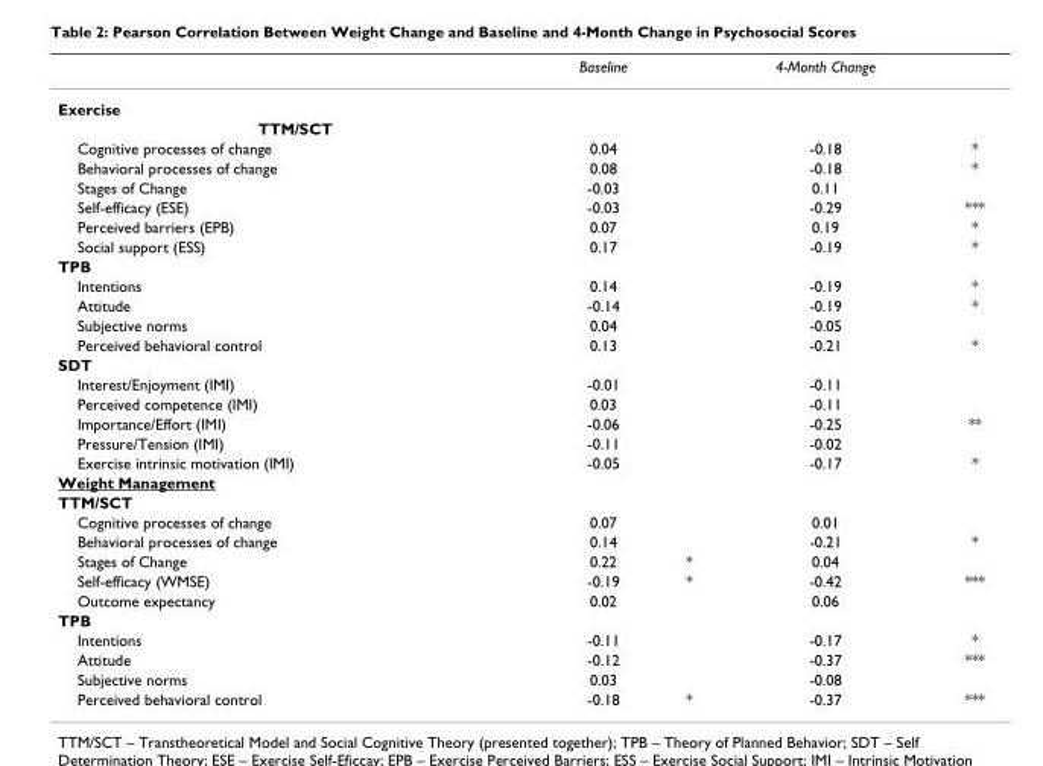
<table><thead><tr><td></td><td>Baseline</td><td></td><td>4-Month Change</td><td></td></tr></thead><tbody><tr><td colspan="5">Exercise</td></tr><tr><td colspan="5">TTM/SCT</td></tr><tr><td>Cognitive processes of change</td><td>0.04</td><td></td><td>-0.18</td><td>*</td></tr><tr><td>Behavioral processes of change</td><td>0.08</td><td></td><td>-0.18</td><td>*</td></tr><tr><td>Stages of Change</td><td>-0.03</td><td></td><td>0.11</td><td></td></tr><tr><td>Self-efficacy (ESE)</td><td>-0.03</td><td></td><td>-0.29</td><td>***</td></tr><tr><td>Perceived barriers (EPB)</td><td>0.07</td><td></td><td>0.19</td><td>*</td></tr><tr><td>Social support (ESS)</td><td>0.17</td><td></td><td>-0.19</td><td>*</td></tr><tr><td colspan="5">TPB</td></tr><tr><td>Intentions</td><td>0.14</td><td></td><td>-0.19</td><td>*</td></tr><tr><td>Attitude</td><td>-0.14</td><td></td><td>-0.19</td><td>*</td></tr><tr><td>Subjective norms</td><td>0.04</td><td></td><td>-0.05</td><td></td></tr><tr><td>Perceived behavioral control</td><td>0.13</td><td></td><td>-0.21</td><td>*</td></tr><tr><td colspan="5">SDT</td></tr><tr><td>Interest/Enjoyment (IMI)</td><td>-0.01</td><td></td><td>-0.11</td><td></td></tr><tr><td>Perceived competence (IMI)</td><td>0.03</td><td></td><td>-0.11</td><td></td></tr><tr><td>Importance/Effort (IMI)</td><td>-0.06</td><td></td><td>-0.25</td><td>**</td></tr><tr><td>Pressure/Tension (IMI)</td><td>-0.11</td><td></td><td>-0.02</td><td></td></tr><tr><td>Exercise intrinsic motivation (IMI)</td><td>-0.05</td><td></td><td>-0.17</td><td>*</td></tr><tr><td colspan="5">Weight Management</td></tr><tr><td colspan="5">TTM/SCT</td></tr><tr><td>Cognitive processes of change</td><td>0.07</td><td></td><td>0.01</td><td></td></tr><tr><td>Behavioral processes of change</td><td>0.14</td><td></td><td>-0.21</td><td>*</td></tr><tr><td>Stages of Change</td><td>0.22</td><td>*</td><td>0.04</td><td></td></tr><tr><td>Self-efficacy (WMSE)</td><td>-0.19</td><td>*</td><td>-0.42</td><td>***</td></tr><tr><td>Outcome expectancy</td><td>0.02</td><td></td><td>0.06</td><td></td></tr><tr><td colspan="5">TPB</td></tr><tr><td>Intentions</td><td>-0.11</td><td></td><td>-0.17</td><td>*</td></tr><tr><td>Attitude</td><td>-0.12</td><td></td><td>-0.37</td><td>***</td></tr><tr><td>Subjective norms</td><td>0.03</td><td></td><td>-0.08</td><td></td></tr><tr><td>Perceived behavioral control</td><td>-0.18</td><td>*</td><td>-0.37</td><td>***</td></tr></tbody></table>